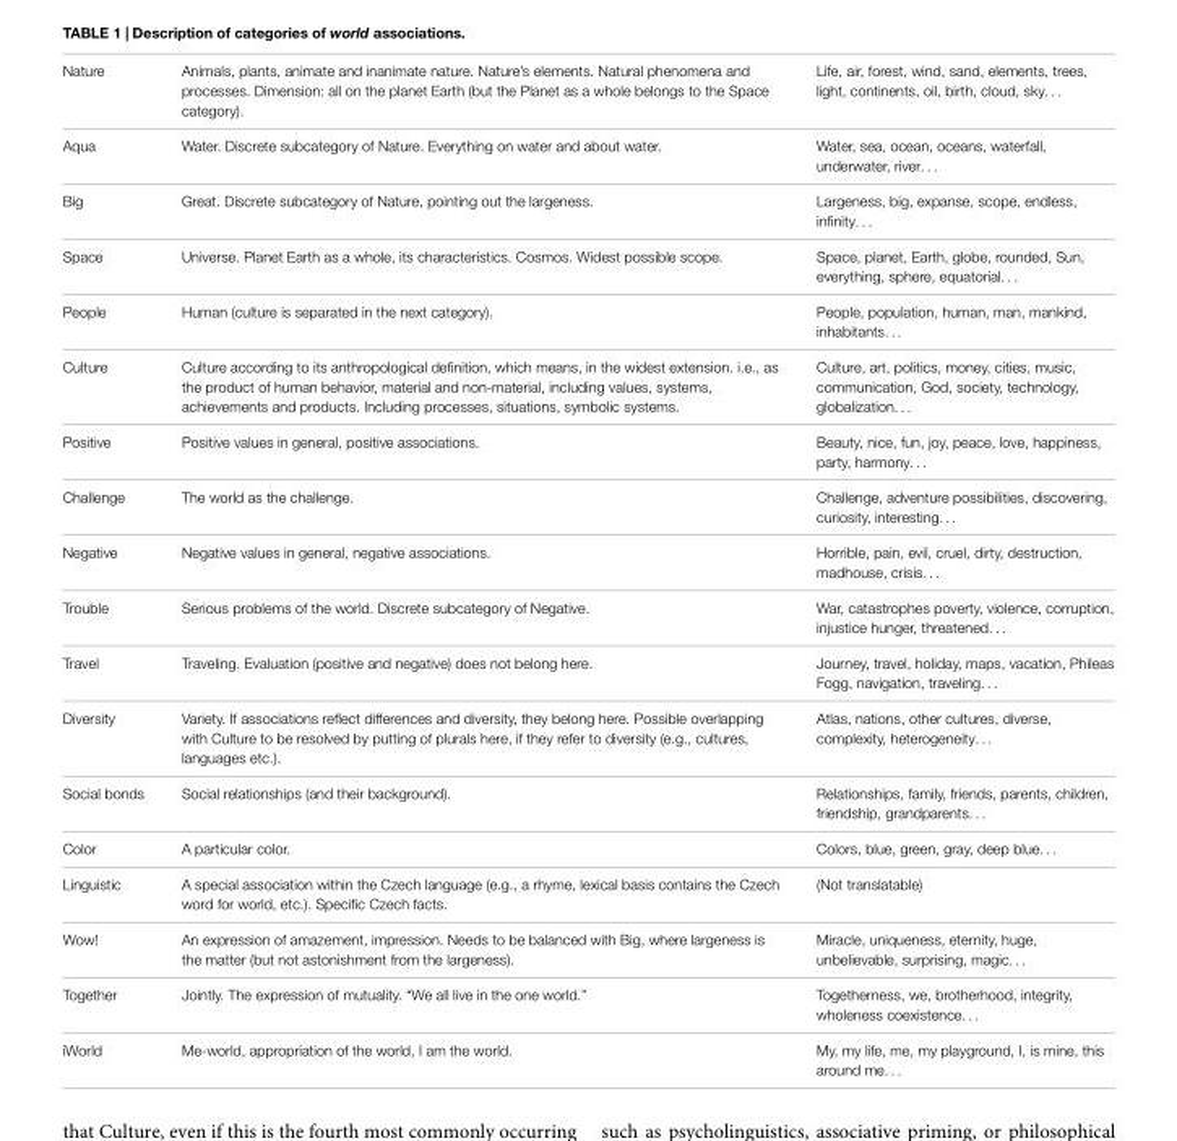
<table><tbody><tr><td>Nature</td><td>Animals, plants, animate and inanimate nature. Nature’s elements. Natural phenomena and processes. Dimension: all on the planet Earth (but the Planet as a whole belongs to the Space category).</td><td>Life, air, forest, wind, sand, elements, trees, light, continents, oil, birth, cloud, sky. . .</td></tr><tr><td>Aqua</td><td>Water. Discrete subcategory of Nature. Everything on water and about water.</td><td>Water, sea, ocean, oceans, waterfall, underwater, river. . .</td></tr><tr><td>Big</td><td>Great. Discrete subcategory of Nature, pointing out the largeness.</td><td>Largeness, big, expanse, scope, endless, infinity. . .</td></tr><tr><td>Space</td><td>Universe. Planet Earth as a whole, its characteristics. Cosmos. Widest possible scope.</td><td>Space, planet, Earth, globe, rounded, Sun, everything, sphere, equatorial. . .</td></tr><tr><td>People</td><td>Human (culture is separated in the next category).</td><td>People, population, human, man, mankind, inhabitants. . .</td></tr><tr><td>Culture</td><td>Culture according to its anthropological definition, which means, in the widest extension. i.e., as the product of human behavior, material and non-material, including values, systems, achievements and products. Including processes, situations, symbolic systems.</td><td>Culture, art, politics, money, cities, music, communication, God, society, technology, globalization. . .</td></tr><tr><td>Positive</td><td>Positive values in general, positive associations.</td><td>Beauty, nice, fun, joy, peace, love, happiness, party, harmony. . .</td></tr><tr><td>Challenge</td><td>The world as the challenge.</td><td>Challenge, adventure possibilities, discovering, curiosity, interesting. . .</td></tr><tr><td>Negative</td><td>Negative values in general, negative associations.</td><td>Horrible, pain, evil, cruel, dirty, destruction, madhouse, crisis. . .</td></tr><tr><td>Trouble</td><td>Serious problems of the world. Discrete subcategory of Negative.</td><td>War, catastrophes poverty, violence, corruption, injustice hunger, threatened. . .</td></tr><tr><td>Travel</td><td>Traveling. Evaluation (positive and negative) does not belong here.</td><td>Journey, travel, holiday, maps, vacation, Phileas Fogg, navigation, traveling. . .</td></tr><tr><td>Diversity</td><td>Variety. If associations reflect differences and diversity, they belong here. Possible overlapping with Culture to be resolved by putting of plurals here, if they refer to diversity (e.g., cultures, languages etc.).</td><td>Atlas, nations, other cultures, diverse, complexity, heterogeneity. . .</td></tr><tr><td>Social bonds</td><td>Social relationships (and their background).</td><td>Relationships, family, friends, parents, children, friendship, grandparents. . .</td></tr><tr><td>Color</td><td>A particular color.</td><td>Colors, blue, green, gray, deep blue. . .</td></tr><tr><td>Linguistic</td><td>A special association within the Czech language (e.g., a rhyme, lexical basis contains the Czech word for world, etc.). Specific Czech facts.</td><td>(Not translatable)</td></tr><tr><td>Wow!</td><td>An expression of amazement, impression. Needs to be balanced with Big, where largeness is the matter (but not astonishment from the largeness).</td><td>Miracle, uniqueness, eternity, huge, unbelievable, surprising, magic. . .</td></tr><tr><td>Together</td><td>Jointly. The expression of mutuality. “We all live in the one world.”</td><td>Togetherness, we, brotherhood, integrity, wholeness coexistence. . .</td></tr><tr><td>iWorld</td><td>Me-world, appropriation of the world, I am the world.</td><td>My, my life, me, my playground, I, is mine, this around me. . .</td></tr></tbody></table>